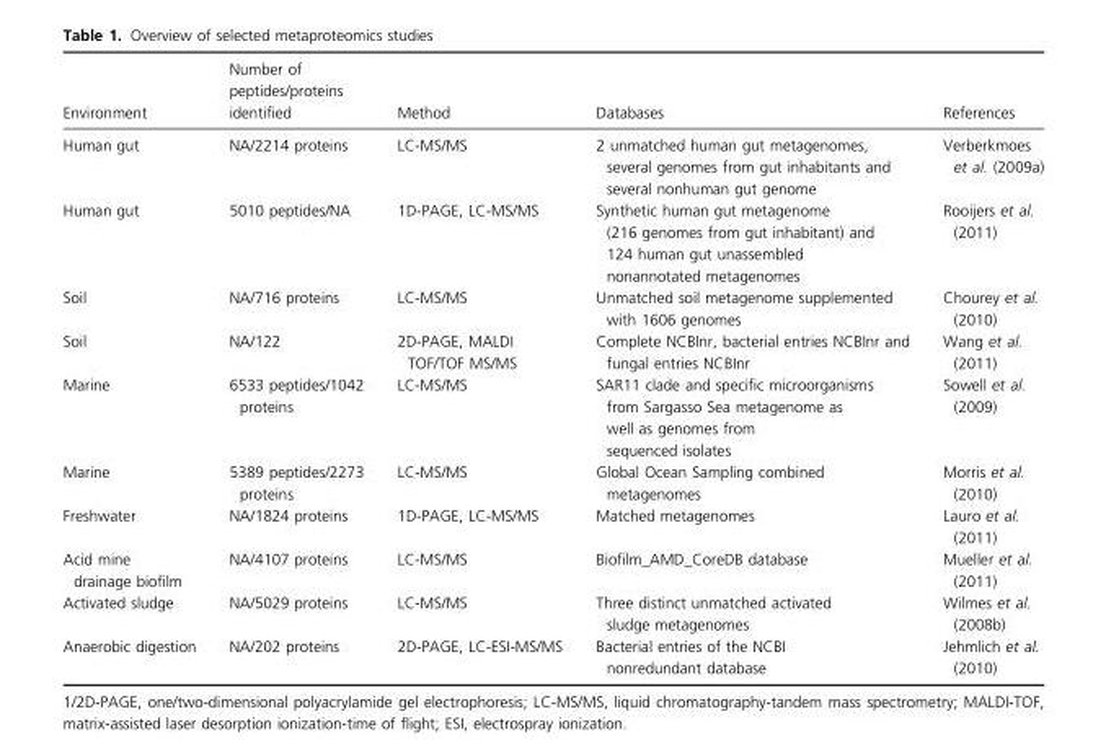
<table><thead><tr><td>Environment</td><td>Number of peptides/proteins identified</td><td>Method</td><td>Databases</td><td>References</td></tr></thead><tbody><tr><td>Human gut</td><td>NA/2214 proteins</td><td>LC-MS/MS</td><td>2 unmatched human gut metagenomes, several genomes from gut inhabitants and several nonhuman gut genome</td><td>Verberkmoes et al. (2009a)</td></tr><tr><td>Human gut</td><td>5010 peptides/NA</td><td>1D-PAGE, LC-MS/MS</td><td>Synthetic human gut metagenome (216 genomes from gut inhabitant) and 124 human gut unassembled nonannotated metagenomes</td><td>Rooijers et al. (2011)</td></tr><tr><td>Soil</td><td>NA/716 proteins</td><td>LC-MS/MS</td><td>Unmatched soil metagenome supplemented with 1606 genomes</td><td>Chourey et al. (2010)</td></tr><tr><td>Soil</td><td>NA/122</td><td>2D-PAGE, MALDI TOF/TOF MS/MS</td><td>Complete NCBInr, bacterial entries NCBInr and fungal entries NCBInr</td><td>Wang et al. (2011)</td></tr><tr><td>Marine</td><td>6533 peptides/1042 proteins</td><td>LC-MS/MS</td><td>SAR11 clade and specific microorganisms from Sargasso Sea metagenome as well as genomes from sequenced isolates</td><td>Sowell et al. (2009)</td></tr><tr><td>Marine</td><td>5389 peptides/2273 proteins</td><td>LC-MS/MS</td><td>Global Ocean Sampling combined metagenomes</td><td>Morris et al. (2010)</td></tr><tr><td>Freshwater</td><td>NA/1824 proteins</td><td>1D-PAGE, LC-MS/MS</td><td>Matched metagenomes</td><td>Lauro et al. (2011)</td></tr><tr><td>Acid mine drainage biofilm</td><td>NA/4107 proteins</td><td>LC-MS/MS</td><td>Biofilm_AMD_CoreDB database</td><td>Mueller et al. (2011)</td></tr><tr><td>Activated sludge</td><td>NA/5029 proteins</td><td>LC-MS/MS</td><td>Three distinct unmatched activated sludge metagenomes</td><td>Wilmes et al. (2008b)</td></tr><tr><td>Anaerobic digestion</td><td>NA/202 proteins</td><td>2D-PAGE, LC-ESI-MS/MS</td><td>Bacterial entries of the NCBI nonredundant database</td><td>Jehmlich et al. (2010)</td></tr></tbody></table>